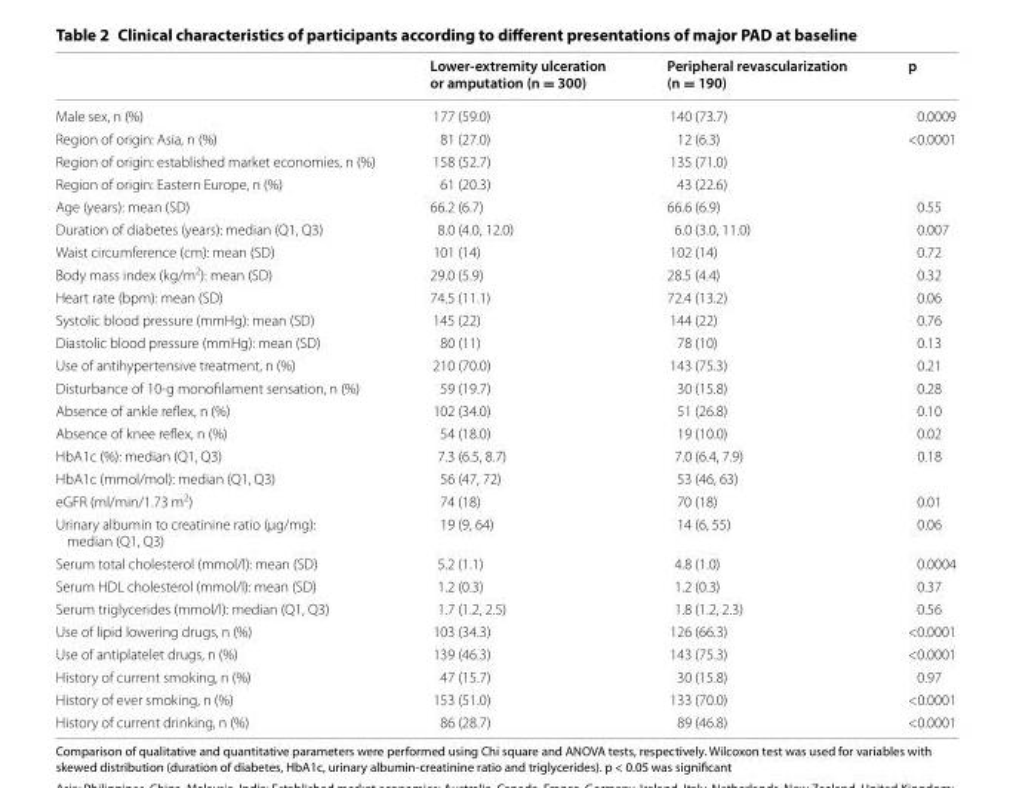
<table><thead><tr><td></td><td>Lower‑extremity ulceration or amputation (n = 300)</td><td>Peripheral revascularization (n = 190)</td><td>p</td></tr></thead><tbody><tr><td>Male sex, n (%)</td><td>177 (59.0)</td><td>140 (73.7)</td><td>0.0009</td></tr><tr><td>Region of origin: Asia, n (%)</td><td>81 (27.0)</td><td>12 (6.3)</td><td rowspan="3">&lt;0.0001</td></tr><tr><td>Region of origin: established market economies, n (%)</td><td>158 (52.7)</td><td>135 (71.0)</td></tr><tr><td>Region of origin: Eastern Europe, n (%)</td><td>61 (20.3)</td><td>43 (22.6)</td></tr><tr><td>Age (years): mean (SD)</td><td>66.2 (6.7)</td><td>66.6 (6.9)</td><td>0.55</td></tr><tr><td>Duration of diabetes (years): median (Q1, Q3)</td><td>8.0 (4.0, 12.0)</td><td>6.0 (3.0, 11.0)</td><td>0.007</td></tr><tr><td>Waist circumference (cm): mean (SD)</td><td>101 (14)</td><td>102 (14)</td><td>0.72</td></tr><tr><td>Body mass index (kg/m<sup>2</sup>): mean (SD)</td><td>29.0 (5.9)</td><td>28.5 (4.4)</td><td>0.32</td></tr><tr><td>Heart rate (bpm): mean (SD)</td><td>74.5 (11.1)</td><td>72.4 (13.2)</td><td>0.06</td></tr><tr><td>Systolic blood pressure (mmHg): mean (SD)</td><td>145 (22)</td><td>144 (22)</td><td>0.76</td></tr><tr><td>Diastolic blood pressure (mmHg): mean (SD)</td><td>80 (11)</td><td>78 (10)</td><td>0.13</td></tr><tr><td>Use of antihypertensive treatment, n (%)</td><td>210 (70.0)</td><td>143 (75.3)</td><td>0.21</td></tr><tr><td>Disturbance of 10-g monofilament sensation, n (%)</td><td>59 (19.7)</td><td>30 (15.8)</td><td>0.28</td></tr><tr><td>Absence of ankle reflex, n (%)</td><td>102 (34.0)</td><td>51 (26.8)</td><td>0.10</td></tr><tr><td>Absence of knee reflex, n (%)</td><td>54 (18.0)</td><td>19 (10.0)</td><td>0.02</td></tr><tr><td>HbA1c (%): median (Q1, Q3)</td><td>7.3 (6.5, 8.7)</td><td>7.0 (6.4, 7.9)</td><td rowspan="2">0.18</td></tr><tr><td>HbA1c (mmol/mol): median (Q1, Q3)</td><td>56 (47, 72)</td><td>53 (46, 63)</td></tr><tr><td>eGFR (ml/min/1.73 m<sup>2</sup>)</td><td>74 (18)</td><td>70 (18)</td><td>0.01</td></tr><tr><td>Urinary albumin to creatinine ratio (µg/mg): median (Q1, Q3)</td><td>19 (9, 64)</td><td>14 (6, 55)</td><td>0.06</td></tr><tr><td>Serum total cholesterol (mmol/l): mean (SD)</td><td>5.2 (1.1)</td><td>4.8 (1.0)</td><td>0.0004</td></tr><tr><td>Serum HDL cholesterol (mmol/l): mean (SD)</td><td>1.2 (0.3)</td><td>1.2 (0.3)</td><td>0.37</td></tr><tr><td>Serum triglycerides (mmol/l): median (Q1, Q3)</td><td>1.7 (1.2, 2.5)</td><td>1.8 (1.2, 2.3)</td><td>0.56</td></tr><tr><td>Use of lipid lowering drugs, n (%)</td><td>103 (34.3)</td><td>126 (66.3)</td><td>&lt;0.0001</td></tr><tr><td>Use of antiplatelet drugs, n (%)</td><td>139 (46.3)</td><td>143 (75.3)</td><td>&lt;0.0001</td></tr><tr><td>History of current smoking, n (%)</td><td>47 (15.7)</td><td>30 (15.8)</td><td>0.97</td></tr><tr><td>History of ever smoking, n (%)</td><td>153 (51.0)</td><td>133 (70.0)</td><td>&lt;0.0001</td></tr><tr><td>History of current drinking, n (%)</td><td>86 (28.7)</td><td>89 (46.8)</td><td>&lt;0.0001</td></tr></tbody></table>